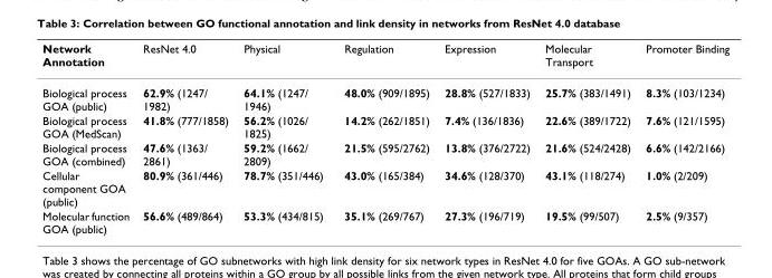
<table><thead><tr><td>Network Annotation</td><td>ResNet 4.0</td><td>Physical</td><td>Regulation</td><td>Expression</td><td>Molecular Transport</td><td>Promoter Binding</td></tr></thead><tbody><tr><td>Biological process GOA (public)</td><td>62.9% (1247/ 1982)</td><td>64.1% (1247/ 1946)</td><td>48.0% (909/1895)</td><td>28.8% (527/1833)</td><td>25.7% (383/1491)</td><td>8.3% (103/1234)</td></tr><tr><td>Biological process GOA (MedScan)</td><td>41.8% (777/1858)</td><td>56.2% (1026/ 1825)</td><td>14.2% (262/1851)</td><td>7.4% (136/1836)</td><td>22.6% (389/1722)</td><td>7.6% (121/1595)</td></tr><tr><td>Biological process GOA (combined)</td><td>47.6% (1363/ 2861)</td><td>59.2% (1662/ 2809)</td><td>21.5% (595/2762)</td><td>13.8% (376/2722)</td><td>21.6% (524/2428)</td><td>6.6% (142/2166)</td></tr><tr><td>Cellular component GOA (public)</td><td>80.9% (361/446)</td><td>78.7% (351/446)</td><td>43.0% (165/384)</td><td>34.6% (128/370)</td><td>43.1% (118/274)</td><td>1.0% (2/209)</td></tr><tr><td>Molecular function GOA (public)</td><td>56.6% (489/864)</td><td>53.3% (434/815)</td><td>35.1% (269/767)</td><td>27.3% (196/719)</td><td>19.5% (99/507)</td><td>2.5% (9/357)</td></tr></tbody></table>